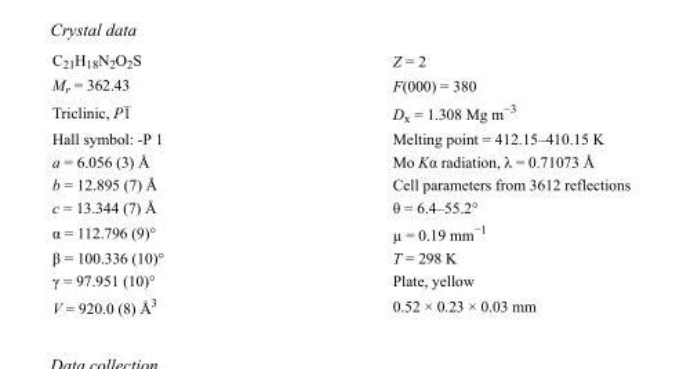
<table><tbody><tr><td>C<sub>21</sub>H<sub>18</sub>N<sub>2</sub>O<sub>2</sub>S</td><td>Z = 2</td></tr><tr><td>M<sub>r</sub> = 362.43</td><td>F(000) = 380</td></tr><tr><td>Triclinic, P1</td><td>D<sub>x</sub> = 1.308 Mg m<sup>−3</sup></td></tr><tr><td>Hall symbol: -P 1</td><td>Melting point = 412.15–410.15 K</td></tr><tr><td>a = 6.056 (3) Å</td><td>Mo Kα radiation, λ = 0.71073 Å</td></tr><tr><td>b = 12.895 (7) Å</td><td>Cell parameters from 3612 reflections</td></tr><tr><td>c = 13.344 (7) Å</td><td>θ = 6.4–55.2°</td></tr><tr><td>α = 112.796 (9)°</td><td>µ = 0.19 mm<sup>−1</sup></td></tr><tr><td>β = 100.336 (10)°</td><td>T = 298 K</td></tr><tr><td>γ = 97.951 (10)°</td><td>Plate, yellow</td></tr><tr><td>V = 920.0 (8) Å<sup>3</sup></td><td>0.52 × 0.23 × 0.03 mm</td></tr></tbody></table>